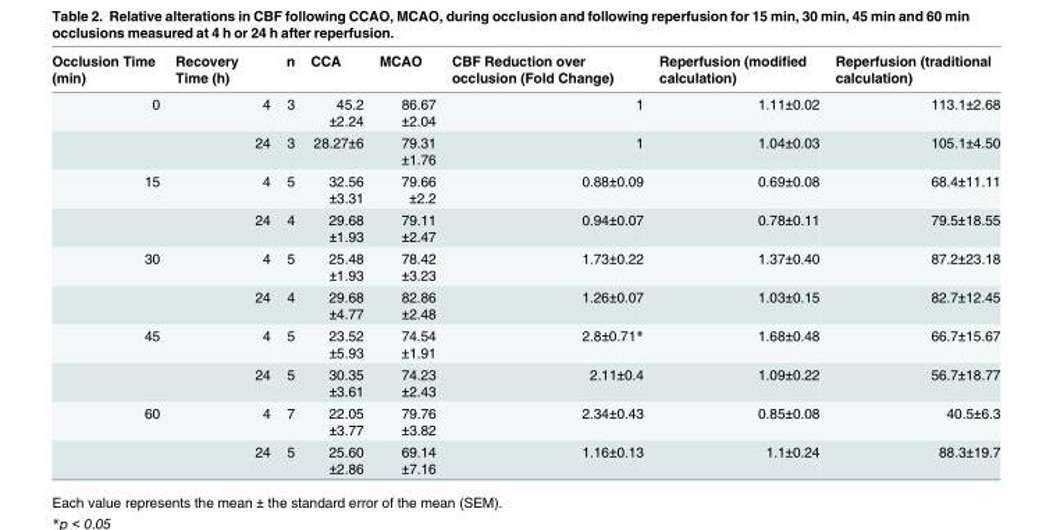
<table><thead><tr><td>Occlusion Time (min)</td><td>Recovery Time (h)</td><td>n</td><td>CCA</td><td>MCAO</td><td>CBF Reduction over occlusion (Fold Change)</td><td>Reperfusion (modified calculation)</td><td>Reperfusion (traditional calculation)</td></tr></thead><tbody><tr><td rowspan="2">0</td><td>4</td><td>3</td><td>45.2 ±2.24</td><td>86.67 ±2.04</td><td>1</td><td>1.11±0.02</td><td>113.1±2.68</td></tr><tr><td>24</td><td>3</td><td>28.27±6</td><td>79.31 ±1.76</td><td>1</td><td>1.04±0.03</td><td>105.1±4.50</td></tr><tr><td rowspan="2">15</td><td>4</td><td>5</td><td>32.56 ±3.31</td><td>79.66 ±2.2</td><td>0.88±0.09</td><td>0.69±0.08</td><td>68.4±11.11</td></tr><tr><td>24</td><td>4</td><td>29.68 ±1.93</td><td>79.11 ±2.47</td><td>0.94±0.07</td><td>0.78±0.11</td><td>79.5±18.55</td></tr><tr><td rowspan="2">30</td><td>4</td><td>5</td><td>25.48 ±1.93</td><td>78.42 ±3.23</td><td>1.73±0.22</td><td>1.37±0.40</td><td>87.2±23.18</td></tr><tr><td>24</td><td>4</td><td>29.68 ±4.77</td><td>82.86 ±2.48</td><td>1.26±0.07</td><td>1.03±0.15</td><td>82.7±12.45</td></tr><tr><td rowspan="2">45</td><td>4</td><td>5</td><td>23.52 ±5.93</td><td>74.54 ±1.91</td><td>2.8±0.71*</td><td>1.68±0.48</td><td>66.7±15.67</td></tr><tr><td>24</td><td>5</td><td>30.35 ±3.61</td><td>74.23 ±2.43</td><td>2.11±0.4</td><td>1.09±0.22</td><td>56.7±18.77</td></tr><tr><td rowspan="2">60</td><td>4</td><td>7</td><td>22.05 ±3.77</td><td>79.76 ±3.82</td><td>2.34±0.43</td><td>0.85±0.08</td><td>40.5±6.3</td></tr><tr><td>24</td><td>5</td><td>25.60 ±2.86</td><td>69.14 ±7.16</td><td>1.16±0.13</td><td>1.1±0.24</td><td>88.3±19.7</td></tr></tbody></table>